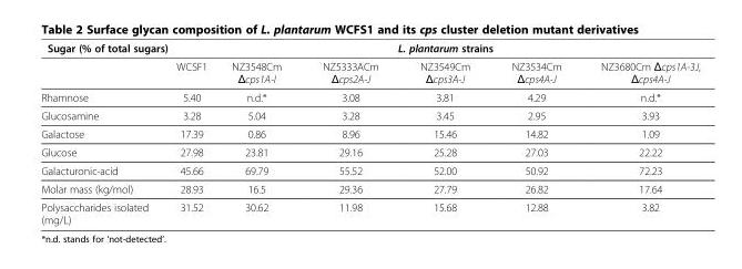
<table><thead><tr><td rowspan="2">Sugar (% of total sugars)</td><td colspan="6">L. plantarum strains</td></tr><tr><td>WCSF1</td><td>NZ3548Cm Δcps1A-I</td><td>NZ5333ACm Δcps2A-J</td><td>NZ3549Cm Δcps3A-J</td><td>NZ3534Cm Δcps4A-J</td><td>NZ3680Cm Δcps1A-3J, Δcps4A-J</td></tr></thead><tbody><tr><td>Rhamnose</td><td>5.40</td><td>n.d.*</td><td>3.08</td><td>3.81</td><td>4.29</td><td>n.d.*</td></tr><tr><td>Glucosamine</td><td>3.28</td><td>5.04</td><td>3.28</td><td>3.45</td><td>2.95</td><td>3.93</td></tr><tr><td>Galactose</td><td>17.39</td><td>0.86</td><td>8.96</td><td>15.46</td><td>14.82</td><td>1.09</td></tr><tr><td>Glucose</td><td>27.98</td><td>23.81</td><td>29.16</td><td>25.28</td><td>27.03</td><td>22.22</td></tr><tr><td>Galacturonic-acid</td><td>45.66</td><td>69.79</td><td>55.52</td><td>52.00</td><td>50.92</td><td>72.23</td></tr><tr><td>Molar mass (kg/mol)</td><td>28.93</td><td>16.5</td><td>29.36</td><td>27.79</td><td>26.82</td><td>17.64</td></tr><tr><td>Polysaccharides isolated (mg/L)</td><td>31.52</td><td>30.62</td><td>11.98</td><td>15.68</td><td>12.88</td><td>3.82</td></tr></tbody></table>